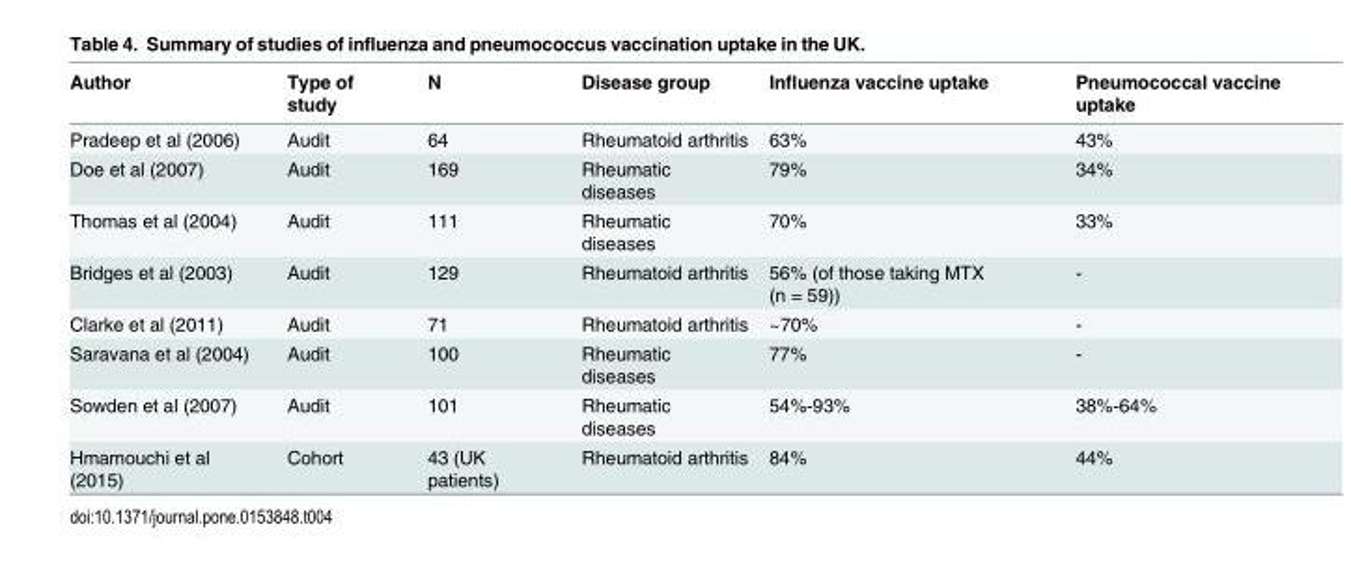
<table><thead><tr><td>Author</td><td>Type of study</td><td>N</td><td>Disease group</td><td>Influenza vaccine uptake</td><td>Pneumococcal vaccine uptake</td></tr></thead><tbody><tr><td>Pradeep et al (2006)</td><td>Audit</td><td>64</td><td>Rheumatoid arthritis</td><td>63%</td><td>43%</td></tr><tr><td>Doe et al (2007)</td><td>Audit</td><td>169</td><td>Rheumatic diseases</td><td>79%</td><td>34%</td></tr><tr><td>Thomas et al (2004)</td><td>Audit</td><td>111</td><td>Rheumatic diseases</td><td>70%</td><td>33%</td></tr><tr><td>Bridges et al (2003)</td><td>Audit</td><td>129</td><td>Rheumatoid arthritis</td><td>56% (of those taking MTX (n = 59))</td><td>-</td></tr><tr><td>Clarke et al (2011)</td><td>Audit</td><td>71</td><td>Rheumatoid arthritis</td><td>~70%</td><td>-</td></tr><tr><td>Saravana et al (2004)</td><td>Audit</td><td>100</td><td>Rheumatic diseases</td><td>77%</td><td>-</td></tr><tr><td>Sowden et al (2007)</td><td>Audit</td><td>101</td><td>Rheumatic diseases</td><td>54%-93%</td><td>38%-64%</td></tr><tr><td>Hmamouchi et al (2015)</td><td>Cohort</td><td>43 (UK patients)</td><td>Rheumatoid arthritis</td><td>84%</td><td>44%</td></tr></tbody></table>